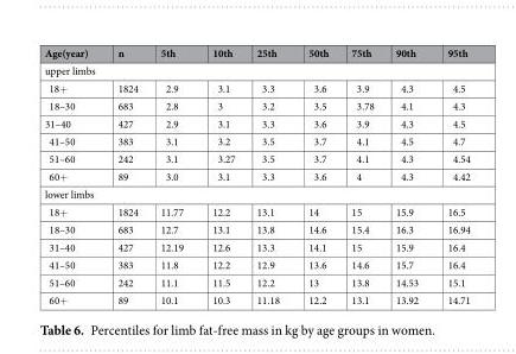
<table><thead><tr><td>Age(year)</td><td>n</td><td>5th</td><td>10th</td><td>25th</td><td>50th</td><td>75th</td><td>90th</td><td>95th</td></tr></thead><tbody><tr><td colspan="9">upper limbs</td></tr><tr><td>18+</td><td>1824</td><td>2.9</td><td>3.1</td><td>3.3</td><td>3.6</td><td>3.9</td><td>4.3</td><td>4.5</td></tr><tr><td>18–30</td><td>683</td><td>2.8</td><td>3</td><td>3.2</td><td>3.5</td><td>3.78</td><td>4.1</td><td>4.3</td></tr><tr><td>31–40</td><td>427</td><td>2.9</td><td>3.1</td><td>3.3</td><td>3.6</td><td>3.9</td><td>4.3</td><td>4.5</td></tr><tr><td>41–50</td><td>383</td><td>3.1</td><td>3.2</td><td>3.5</td><td>3.7</td><td>4.1</td><td>4.5</td><td>4.7</td></tr><tr><td>51–60</td><td>242</td><td>3.1</td><td>3.27</td><td>3.5</td><td>3.7</td><td>4.1</td><td>4.3</td><td>4.54</td></tr><tr><td>60+</td><td>89</td><td>3.0</td><td>3.1</td><td>3.3</td><td>3.6</td><td>4</td><td>4.3</td><td>4.42</td></tr><tr><td colspan="9">lower limbs</td></tr><tr><td>18+</td><td>1824</td><td>11.77</td><td>12.2</td><td>13.1</td><td>14</td><td>15</td><td>15.9</td><td>16.5</td></tr><tr><td>18–30</td><td>683</td><td>12.7</td><td>13.1</td><td>13.8</td><td>14.6</td><td>15.4</td><td>16.3</td><td>16.94</td></tr><tr><td>31–40</td><td>427</td><td>12.19</td><td>12.6</td><td>13.3</td><td>14.1</td><td>15</td><td>15.9</td><td>16.4</td></tr><tr><td>41–50</td><td>383</td><td>11.8</td><td>12.2</td><td>12.9</td><td>13.6</td><td>14.6</td><td>15.7</td><td>16.4</td></tr><tr><td>51–60</td><td>242</td><td>11.1</td><td>11.5</td><td>12.2</td><td>13</td><td>13.8</td><td>14.53</td><td>15.1</td></tr><tr><td>60+</td><td>89</td><td>10.1</td><td>10.3</td><td>11.18</td><td>12.2</td><td>13.1</td><td>13.92</td><td>14.71</td></tr></tbody></table>